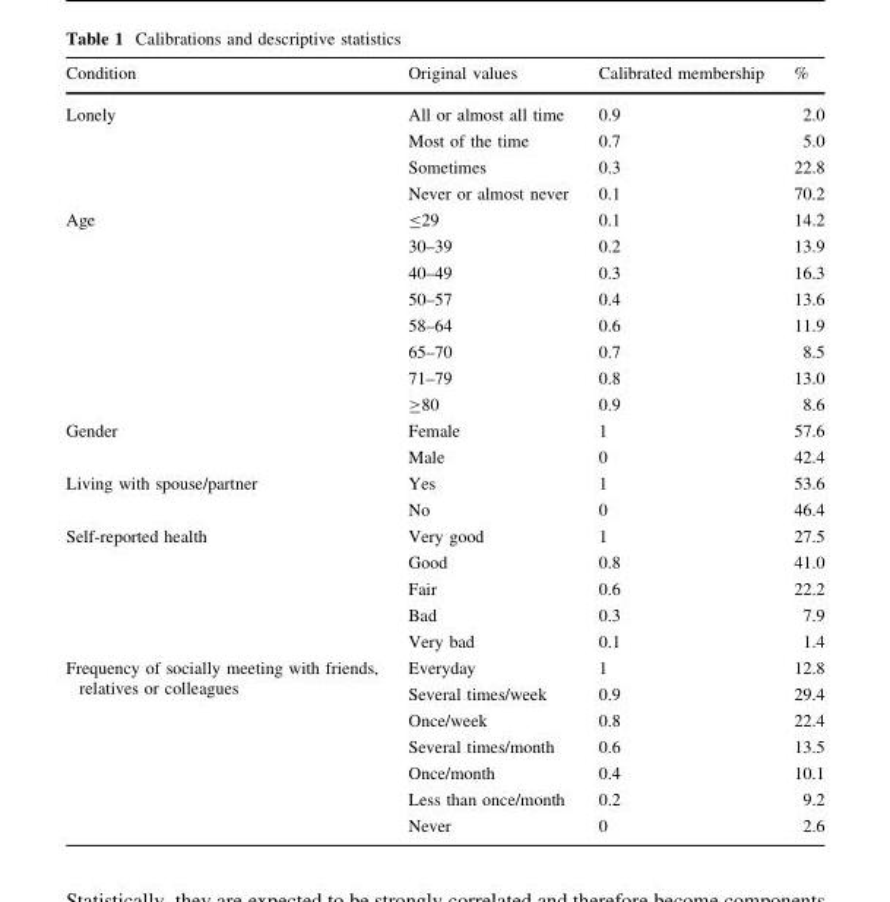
<table><thead><tr><td>Condition</td><td>Original values</td><td>Calibrated membership</td><td>%</td></tr></thead><tbody><tr><td rowspan="4">Lonely</td><td>All or almost all time</td><td>0.9</td><td>2.0</td></tr><tr><td>Most of the time</td><td>0.7</td><td>5.0</td></tr><tr><td>Sometimes</td><td>0.3</td><td>22.8</td></tr><tr><td>Never or almost never</td><td>0.1</td><td>70.2</td></tr><tr><td rowspan="8">Age</td><td>≤29</td><td>0.1</td><td>14.2</td></tr><tr><td>30–39</td><td>0.2</td><td>13.9</td></tr><tr><td>40–49</td><td>0.3</td><td>16.3</td></tr><tr><td>50–57</td><td>0.4</td><td>13.6</td></tr><tr><td>58–64</td><td>0.6</td><td>11.9</td></tr><tr><td>65–70</td><td>0.7</td><td>8.5</td></tr><tr><td>71–79</td><td>0.8</td><td>13.0</td></tr><tr><td>≥80</td><td>0.9</td><td>8.6</td></tr><tr><td rowspan="2">Gender</td><td>Female</td><td>1</td><td>57.6</td></tr><tr><td>Male</td><td>0</td><td>42.4</td></tr><tr><td rowspan="2">Living with spouse/partner</td><td>Yes</td><td>1</td><td>53.6</td></tr><tr><td>No</td><td>0</td><td>46.4</td></tr><tr><td rowspan="5">Self-reported health</td><td>Very good</td><td>1</td><td>27.5</td></tr><tr><td>Good</td><td>0.8</td><td>41.0</td></tr><tr><td>Fair</td><td>0.6</td><td>22.2</td></tr><tr><td>Bad</td><td>0.3</td><td>7.9</td></tr><tr><td>Very bad</td><td>0.1</td><td>1.4</td></tr><tr><td rowspan="7">Frequency of socially meeting with friends, relatives or colleagues</td><td>Everyday</td><td>1</td><td>12.8</td></tr><tr><td>Several times/week</td><td>0.9</td><td>29.4</td></tr><tr><td>Once/week</td><td>0.8</td><td>22.4</td></tr><tr><td>Several times/month</td><td>0.6</td><td>13.5</td></tr><tr><td>Once/month</td><td>0.4</td><td>10.1</td></tr><tr><td>Less than once/month</td><td>0.2</td><td>9.2</td></tr><tr><td>Never</td><td>0</td><td>2.6</td></tr></tbody></table>